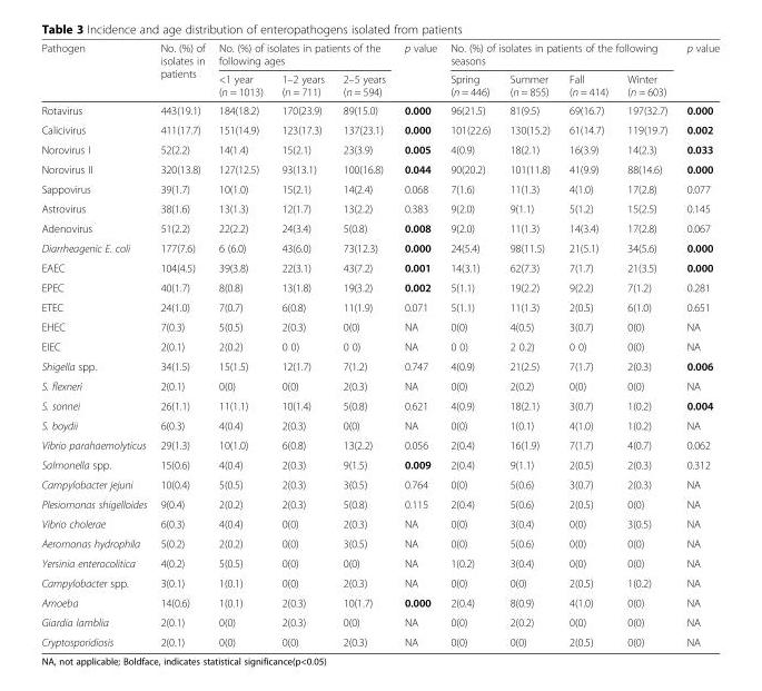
<table><thead><tr><td rowspan="2">Pathogen</td><td rowspan="2">No. (%) of isolates in patients</td><td colspan="3">No. (%) of isolates in patients of the following ages</td><td rowspan="2">p value</td><td colspan="4">No. (%) of isolates in patients of the following seasons</td><td rowspan="2">p value</td></tr><tr><td>&lt;1 year (n = 1013)</td><td>1–2 years (n = 711)</td><td>2–5 years (n = 594)</td><td>Spring (n = 446)</td><td>Summer (n = 855)</td><td>Fall (n = 414)</td><td>Winter (n = 603)</td></tr></thead><tbody><tr><td>Rotavirus</td><td>443(19.1)</td><td>184(18.2)</td><td>170(23.9)</td><td>89(15.0)</td><td>0.000</td><td>96(21.5)</td><td>81(9.5)</td><td>69(16.7)</td><td>197(32.7)</td><td>0.000</td></tr><tr><td>Calicivirus</td><td>411(17.7)</td><td>151(14.9)</td><td>123(17.3)</td><td>137(23.1)</td><td>0.000</td><td>101(22.6)</td><td>130(15.2)</td><td>61(14.7)</td><td>119(19.7)</td><td>0.002</td></tr><tr><td>Norovirus I</td><td>52(2.2)</td><td>14(1.4)</td><td>15(2.1)</td><td>23(3.9)</td><td>0.005</td><td>4(0.9)</td><td>18(2.1)</td><td>16(3.9)</td><td>14(2.3)</td><td>0.033</td></tr><tr><td>Norovirus II</td><td>320(13.8)</td><td>127(12.5)</td><td>93(13.1)</td><td>100(16.8)</td><td>0.044</td><td>90(20.2)</td><td>101(11.8)</td><td>41(9.9)</td><td>88(14.6)</td><td>0.000</td></tr><tr><td>Sappovirus</td><td>39(1.7)</td><td>10(1.0)</td><td>15(2.1)</td><td>14(2.4)</td><td>0.068</td><td>7(1.6)</td><td>11(1.3)</td><td>4(1.0)</td><td>17(2.8)</td><td>0.077</td></tr><tr><td>Astrovirus</td><td>38(1.6)</td><td>13(1.3)</td><td>12(1.7)</td><td>13(2.2)</td><td>0.383</td><td>9(2.0)</td><td>9(1.1)</td><td>5(1.2)</td><td>15(2.5)</td><td>0.145</td></tr><tr><td>Adenovirus</td><td>51(2.2)</td><td>22(2.2)</td><td>24(3.4)</td><td>5(0.8)</td><td>0.008</td><td>9(2.0)</td><td>11(1.3)</td><td>14(3.4)</td><td>17(2.8)</td><td>0.067</td></tr><tr><td>Diarrheagenic E. coli</td><td>177(7.6)</td><td>6 (6.0)</td><td>43(6.0)</td><td>73(12.3)</td><td>0.000</td><td>24(5.4)</td><td>98(11.5)</td><td>21(5.1)</td><td>34(5.6)</td><td>0.000</td></tr><tr><td>EAEC</td><td>104(4.5)</td><td>39(3.8)</td><td>22(3.1)</td><td>43(7.2)</td><td>0.001</td><td>14(3.1)</td><td>62(7.3)</td><td>7(1.7)</td><td>21(3.5)</td><td>0.000</td></tr><tr><td>EPEC</td><td>40(1.7)</td><td>8(0.8)</td><td>13(1.8)</td><td>19(3.2)</td><td>0.002</td><td>5(1.1)</td><td>19(2.2)</td><td>9(2.2)</td><td>7(1.2)</td><td>0.281</td></tr><tr><td>ETEC</td><td>24(1.0)</td><td>7(0.7)</td><td>6(0.8)</td><td>11(1.9)</td><td>0.071</td><td>5(1.1)</td><td>11(1.3)</td><td>2(0.5)</td><td>6(1.0)</td><td>0.651</td></tr><tr><td>EHEC</td><td>7(0.3)</td><td>5(0.5)</td><td>2(0.3)</td><td>0(0)</td><td>NA</td><td>0(0)</td><td>4(0.5)</td><td>3(0.7)</td><td>0(0)</td><td>NA</td></tr><tr><td>EIEC</td><td>2(0.1)</td><td>2(0.2)</td><td>0 0)</td><td>0 0)</td><td>NA</td><td>0 0)</td><td>2 0.2)</td><td>0 0)</td><td>0(0)</td><td>NA</td></tr><tr><td>Shigella spp.</td><td>34(1.5)</td><td>15(1.5)</td><td>12(1.7)</td><td>7(1.2)</td><td>0.747</td><td>4(0.9)</td><td>21(2.5)</td><td>7(1.7)</td><td>2(0.3)</td><td>0.006</td></tr><tr><td>S. flexneri</td><td>2(0.1)</td><td>0(0)</td><td>0(0)</td><td>2(0.3)</td><td>NA</td><td>0(0)</td><td>2(0.2)</td><td>0(0)</td><td>0(0)</td><td>NA</td></tr><tr><td>S. sonnei</td><td>26(1.1)</td><td>11(1.1)</td><td>10(1.4)</td><td>5(0.8)</td><td>0.621</td><td>4(0.9)</td><td>18(2.1)</td><td>3(0.7)</td><td>1(0.2)</td><td>0.004</td></tr><tr><td>S. boydii</td><td>6(0.3)</td><td>4(0.4)</td><td>2(0.3)</td><td>0(0)</td><td>NA</td><td>0(0)</td><td>1(0.1)</td><td>4(1.0)</td><td>1(0.2)</td><td>NA</td></tr><tr><td>Vibrio parahaemolyticus</td><td>29(1.3)</td><td>10(1.0)</td><td>6(0.8)</td><td>13(2.2)</td><td>0.056</td><td>2(0.4)</td><td>16(1.9)</td><td>7(1.7)</td><td>4(0.7)</td><td>0.062</td></tr><tr><td>Salmonella spp.</td><td>15(0.6)</td><td>4(0.4)</td><td>2(0.3)</td><td>9(1.5)</td><td>0.009</td><td>2(0.4)</td><td>9(1.1)</td><td>2(0.5)</td><td>2(0.3)</td><td>0.312</td></tr><tr><td>Campylobacter jejuni</td><td>10(0.4)</td><td>5(0.5)</td><td>2(0.3)</td><td>3(0.5)</td><td>0.764</td><td>0(0)</td><td>5(0.6)</td><td>3(0.7)</td><td>2(0.3)</td><td>NA</td></tr><tr><td>Plesiomonas shigelloides</td><td>9(0.4)</td><td>2(0.2)</td><td>2(0.3)</td><td>5(0.8)</td><td>0.115</td><td>2(0.4)</td><td>5(0.6)</td><td>2(0.5)</td><td>0(0)</td><td>NA</td></tr><tr><td>Vibrio cholerae</td><td>6(0.3)</td><td>4(0.4)</td><td>0(0)</td><td>2(0.3)</td><td>NA</td><td>0(0)</td><td>3(0.4)</td><td>0(0)</td><td>3(0.5)</td><td>NA</td></tr><tr><td>Aeromonas hydrophila</td><td>5(0.2)</td><td>2(0.2)</td><td>0(0)</td><td>3(0.5)</td><td>NA</td><td>0(0)</td><td>5(0.6)</td><td>0(0)</td><td>0(0)</td><td>NA</td></tr><tr><td>Yersinia enterocolitica</td><td>4(0.2)</td><td>5(0.5)</td><td>0(0)</td><td>0(0)</td><td>NA</td><td>1(0.2)</td><td>3(0.4)</td><td>0(0)</td><td>0(0)</td><td>NA</td></tr><tr><td>Campylobacter spp.</td><td>3(0.1)</td><td>1(0.1)</td><td>0(0)</td><td>2(0.3)</td><td>NA</td><td>0(0)</td><td>0(0)</td><td>2(0.5)</td><td>1(0.2)</td><td>NA</td></tr><tr><td>Amoeba</td><td>14(0.6)</td><td>1(0.1)</td><td>2(0.3)</td><td>10(1.7)</td><td>0.000</td><td>2(0.4)</td><td>8(0.9)</td><td>4(1.0)</td><td>0(0)</td><td>NA</td></tr><tr><td>Giardia lamblia</td><td>2(0.1)</td><td>0(0)</td><td>2(0.3)</td><td>0(0)</td><td>NA</td><td>0(0)</td><td>2(0.2)</td><td>0(0)</td><td>0(0)</td><td>NA</td></tr><tr><td>Cryptosporidiosis</td><td>2(0.1)</td><td>0(0)</td><td>0(0)</td><td>2(0.3)</td><td>NA</td><td>0(0)</td><td>0(0)</td><td>2(0.5)</td><td>0(0)</td><td>NA</td></tr></tbody></table>